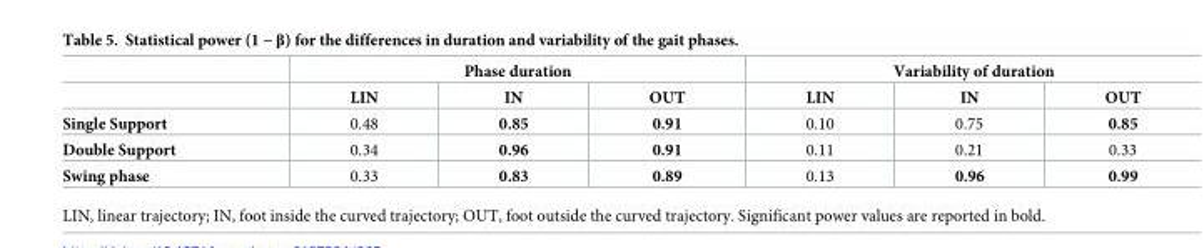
<table><thead><tr><td rowspan="2"></td><td colspan="3">Phase duration</td><td colspan="3">Variability of duration</td></tr><tr><td>LIN</td><td>IN</td><td>OUT</td><td>LIN</td><td>IN</td><td>OUT</td></tr></thead><tbody><tr><td>Single Support</td><td>0.48</td><td>0.85</td><td>0.91</td><td>0.10</td><td>0.75</td><td>0.85</td></tr><tr><td>Double Support</td><td>0.34</td><td>0.96</td><td>0.91</td><td>0.11</td><td>0.21</td><td>0.33</td></tr><tr><td>Swing phase</td><td>0.33</td><td>0.83</td><td>0.89</td><td>0.13</td><td>0.96</td><td>0.99</td></tr></tbody></table>